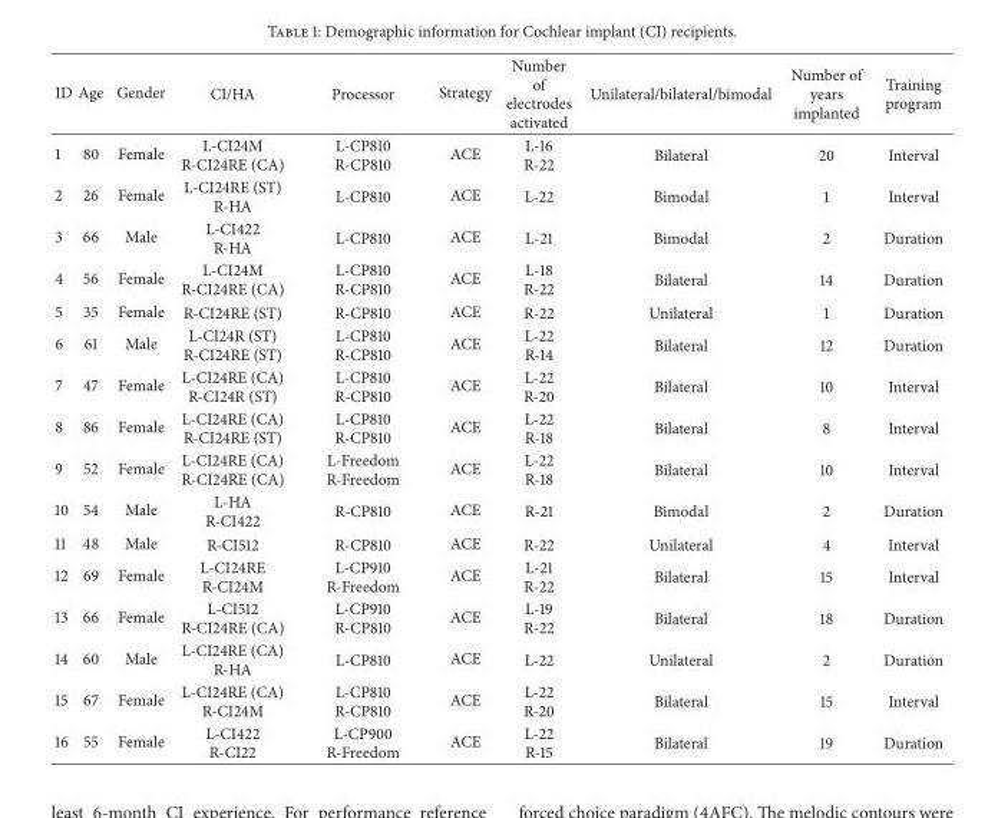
<table><thead><tr><td>ID</td><td>Age</td><td>Gender</td><td>CI/HA</td><td>Processor</td><td>Strategy</td><td>Number of electrodes activated</td><td>Unilateral/bilateral/bimodal</td><td>Number of years implanted</td><td>Training program</td></tr></thead><tbody><tr><td>1</td><td>80</td><td>Female</td><td>L-CI24M R-CI24RE (CA)</td><td>L-CP810 R-CP810</td><td>ACE</td><td>L-16 R-22</td><td>Bilateral</td><td>20</td><td>Interval</td></tr><tr><td>2</td><td>26</td><td>Female</td><td>L-CI24RE (ST) R-HA</td><td>L-CP810</td><td>ACE</td><td>L-22</td><td>Bimodal</td><td>1</td><td>Interval</td></tr><tr><td>3</td><td>66</td><td>Male</td><td>L-CI422 R-HA</td><td>L-CP810</td><td>ACE</td><td>L-21</td><td>Bimodal</td><td>2</td><td>Duration</td></tr><tr><td>4</td><td>56</td><td>Female</td><td>L-CI24M R-CI24RE (CA)</td><td>L-CP810 R-CP810</td><td>ACE</td><td>L-18 R-22</td><td>Bilateral</td><td>14</td><td>Duration</td></tr><tr><td>5</td><td>35</td><td>Female</td><td>R-CI24RE (ST)</td><td>R-CP810</td><td>ACE</td><td>R-22</td><td>Unilateral</td><td>1</td><td>Duration</td></tr><tr><td>6</td><td>61</td><td>Male</td><td>L-CI24R (ST) R-CI24RE (ST)</td><td>L-CP810 R-CP810</td><td>ACE</td><td>L-22 R-14</td><td>Bilateral</td><td>12</td><td>Duration</td></tr><tr><td>7</td><td>47</td><td>Female</td><td>L-CI24RE (CA) R-CI24R (ST)</td><td>L-CP810 R-CP810</td><td>ACE</td><td>L-22 R-20</td><td>Bilateral</td><td>10</td><td>Interval</td></tr><tr><td>8</td><td>86</td><td>Female</td><td>L-CI24RE (CA) R-CI24RE (ST)</td><td>L-CP810 R-CP810</td><td>ACE</td><td>L-22 R-18</td><td>Bilateral</td><td>8</td><td>Interval</td></tr><tr><td>9</td><td>52</td><td>Female</td><td>L-CI24RE (CA) R-CI24RE (CA)</td><td>L-Freedom R-Freedom</td><td>ACE</td><td>L-22 R-18</td><td>Bilateral</td><td>10</td><td>Interval</td></tr><tr><td>10</td><td>54</td><td>Male</td><td>L-HA R-CI422</td><td>R-CP810</td><td>ACE</td><td>R-21</td><td>Bimodal</td><td>2</td><td>Duration</td></tr><tr><td>11</td><td>48</td><td>Male</td><td>R-CI512</td><td>R-CP810</td><td>ACE</td><td>R-22</td><td>Unilateral</td><td>4</td><td>Interval</td></tr><tr><td>12</td><td>69</td><td>Female</td><td>L-CI24RE R-CI24M</td><td>L-CP910 R-Freedom</td><td>ACE</td><td>L-21 R-22</td><td>Bilateral</td><td>15</td><td>Interval</td></tr><tr><td>13</td><td>66</td><td>Female</td><td>L-CI512 R-CI24RE (CA)</td><td>L-CP910 R-CP810</td><td>ACE</td><td>L-19 R-22</td><td>Bilateral</td><td>18</td><td>Duration</td></tr><tr><td>14</td><td>60</td><td>Male</td><td>L-CI24RE (CA) R-HA</td><td>L-CP810</td><td>ACE</td><td>L-22</td><td>Unilateral</td><td>2</td><td>Duration</td></tr><tr><td>15</td><td>67</td><td>Female</td><td>L-CI24RE (CA) R-CI24M</td><td>L-CP810 R-CP810</td><td>ACE</td><td>L-22 R-20</td><td>Bilateral</td><td>15</td><td>Interval</td></tr><tr><td>16</td><td>55</td><td>Female</td><td>L-CI422 R-CI22</td><td>L-CP900 R-Freedom</td><td>ACE</td><td>L-22 R-15</td><td>Bilateral</td><td>19</td><td>Duration</td></tr></tbody></table>